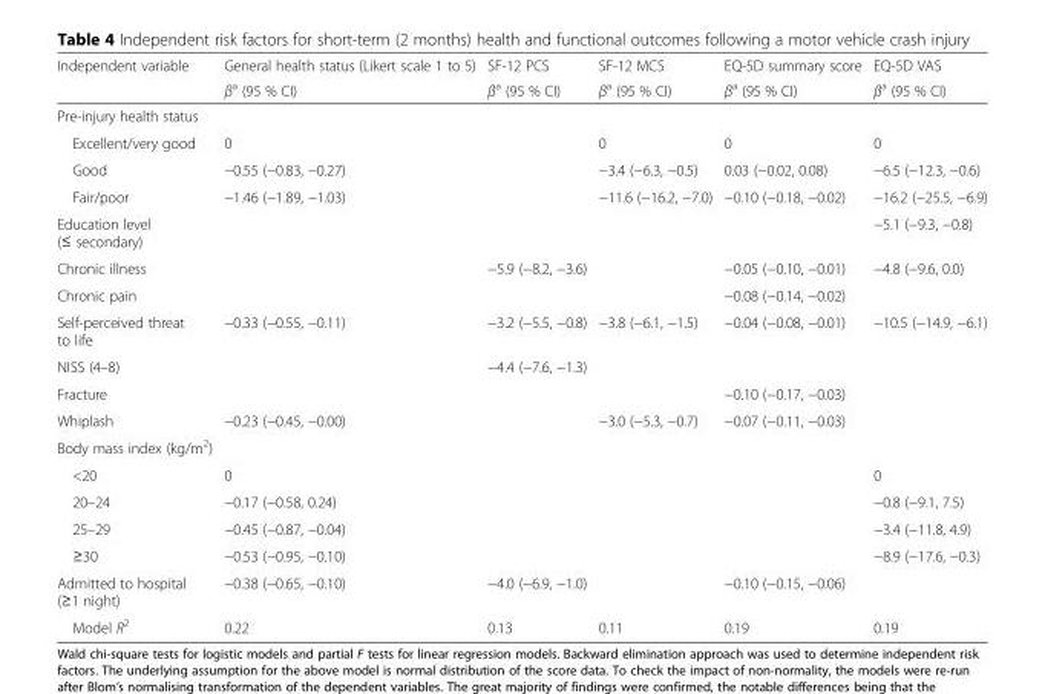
<table><thead><tr><td rowspan="2">Independent variable</td><td rowspan="2">General health status (Likert scale 1 to 5) β<sup>a</sup> (95 % CI)</td><td rowspan="2">SF-12 PCS β<sup>a</sup> (95 % CI)</td><td rowspan="2">SF-12 MCS β<sup>a</sup> (95 % CI)</td><td rowspan="2">EQ-5D summary score β<sup>a</sup> (95 % CI)</td><td rowspan="2">EQ-5D VAS β<sup>a</sup> (95 % CI)</td></tr><tr></tr></thead><tbody><tr><td colspan="6">Pre-injury health status</td></tr><tr><td>Excellent/very good</td><td>0</td><td></td><td>0</td><td>0</td><td>0</td></tr><tr><td>Good</td><td>−0.55 (−0.83, −0.27)</td><td></td><td>−3.4 (−6.3, −0.5)</td><td>0.03 (−0.02, 0.08)</td><td>−6.5 (−12.3, −0.6)</td></tr><tr><td>Fair/poor</td><td>−1.46 (−1.89, −1.03)</td><td></td><td>−11.6 (−16.2, −7.0)</td><td>−0.10 (−0.18, −0.02)</td><td>−16.2 (−25.5, −6.9)</td></tr><tr><td>Education level (≤ secondary)</td><td></td><td></td><td></td><td></td><td>−5.1 (−9.3, −0.8)</td></tr><tr><td>Chronic illness</td><td></td><td>−5.9 (−8.2, −3.6)</td><td></td><td>−0.05 (−0.10, −0.01)</td><td>−4.8 (−9.6, 0.0)</td></tr><tr><td>Chronic pain</td><td></td><td></td><td></td><td>−0.08 (−0.14, −0.02)</td><td></td></tr><tr><td>Self-perceived threat to life</td><td>−0.33 (−0.55, −0.11)</td><td>−3.2 (−5.5, −0.8)</td><td>−3.8 (−6.1, −1.5)</td><td>−0.04 (−0.08, −0.01)</td><td>−10.5 (−14.9, −6.1)</td></tr><tr><td>NISS (4–8)</td><td></td><td>−4.4 (−7.6, −1.3)</td><td></td><td></td><td></td></tr><tr><td>Fracture</td><td></td><td></td><td></td><td>−0.10 (−0.17, −0.03)</td><td></td></tr><tr><td>Whiplash</td><td>−0.23 (−0.45, −0.00)</td><td></td><td>−3.0 (−5.3, −0.7)</td><td>−0.07 (−0.11, −0.03)</td><td></td></tr><tr><td colspan="6">Body mass index (kg/m<sup>2</sup>)</td></tr><tr><td>&lt;20</td><td>0</td><td></td><td></td><td></td><td>0</td></tr><tr><td>20–24</td><td>−0.17 (−0.58, 0.24)</td><td></td><td></td><td></td><td>−0.8 (−9.1, 7.5)</td></tr><tr><td>25–29</td><td>−0.45 (−0.87, −0.04)</td><td></td><td></td><td></td><td>−3.4 (−11.8, 4.9)</td></tr><tr><td>≥30</td><td>−0.53 (−0.95, −0.10)</td><td></td><td></td><td></td><td>−8.9 (−17.6, −0.3)</td></tr><tr><td>Admitted to hospital (≥1 night)</td><td>−0.38 (−0.65, −0.10)</td><td>−4.0 (−6.9, −1.0)</td><td></td><td>−0.10 (−0.15, −0.06)</td><td></td></tr><tr><td>Model R<sup>2</sup></td><td>0.22</td><td>0.13</td><td>0.11</td><td>0.19</td><td>0.19</td></tr></tbody></table>